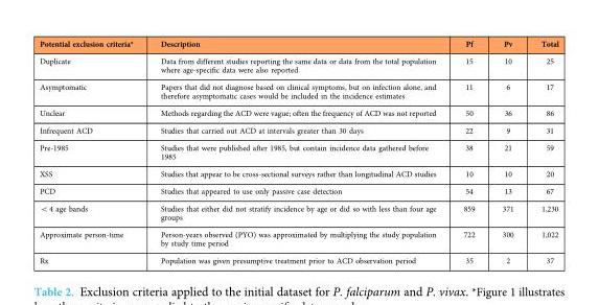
<table><thead><tr><td>Potential exclusion criteria*</td><td>Description</td><td>Pf</td><td>Pv</td><td>Total</td></tr></thead><tbody><tr><td>Duplicate</td><td>Data from different studies reporting the same data or data from the total population where age-specific data were also reported</td><td>15</td><td>10</td><td>25</td></tr><tr><td>Asymptomatic</td><td>Papers that did not diagnose based on clinical symptoms, but on infection alone, and therefore asymptomatic cases would be included in the incidence estimates</td><td>11</td><td>6</td><td>17</td></tr><tr><td>Unclear</td><td>Methods regarding the ACD were vague; often the frequency of ACD was not reported</td><td>50</td><td>36</td><td>86</td></tr><tr><td>Infrequent ACD</td><td>Studies that carried out ACD at intervals greater than 30 days</td><td>22</td><td>9</td><td>31</td></tr><tr><td>Pre-1985</td><td>Studies that were published after 1985, but contain incidence data gathered before 1985</td><td>38</td><td>21</td><td>59</td></tr><tr><td>XSS</td><td>Studies that appear to be cross-sectional surveys rather than longitudinal ACD studies</td><td>10</td><td>10</td><td>20</td></tr><tr><td>PCD</td><td>Studies that appeared to use only passive case detection</td><td>54</td><td>13</td><td>67</td></tr><tr><td>&lt;4 age bands</td><td>Studies that either did not stratify incidence by age or did so with less than four age groups</td><td>859</td><td>371</td><td>1,230</td></tr><tr><td>Approximate person-time</td><td>Person-years observed (PYO) was approximated by multiplying the study population by study time period</td><td>722</td><td>300</td><td>1,022</td></tr><tr><td>Rx</td><td>Population was given presumptive treatment prior to ACD observation period</td><td>35</td><td>2</td><td>37</td></tr></tbody></table>